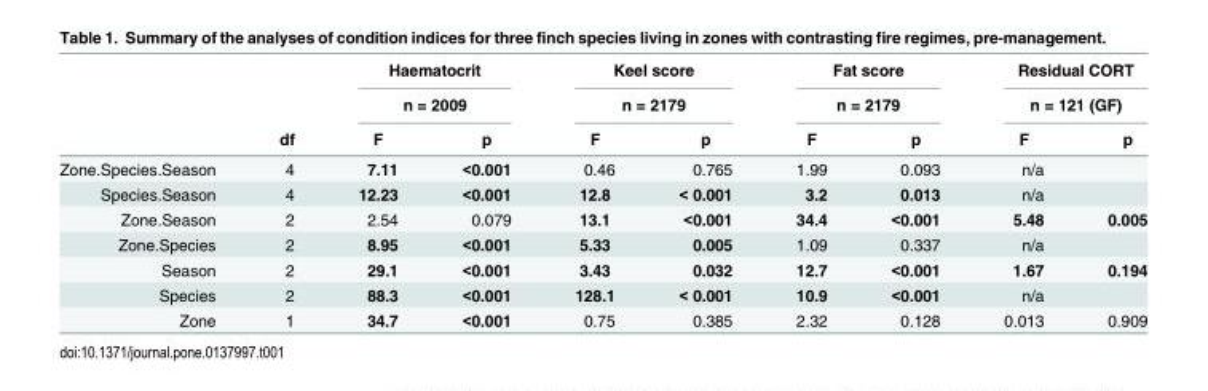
<table><thead><tr><td rowspan="3"></td><td rowspan="3">df</td><td rowspan="2" colspan="2">Haematocrit n = 2009</td><td rowspan="2" colspan="2">Keel score n = 2179</td><td rowspan="2" colspan="2">Fat score n = 2179</td><td rowspan="2" colspan="2">Residual CORT n = 121 (GF)</td></tr><tr></tr><tr><td>F</td><td>p</td><td>F</td><td>p</td><td>F</td><td>p</td><td>F</td><td>p</td></tr></thead><tbody><tr><td>Zone.Species.Season</td><td>4</td><td>7.11</td><td>&lt;0.001</td><td>0.46</td><td>0.765</td><td>1.99</td><td>0.093</td><td>n/a</td><td></td></tr><tr><td>Species.Season</td><td>4</td><td>12.23</td><td>&lt;0.001</td><td>12.8</td><td>&lt; 0.001</td><td>3.2</td><td>0.013</td><td>n/a</td><td></td></tr><tr><td>Zone.Season</td><td>2</td><td>2.54</td><td>0.079</td><td>13.1</td><td>&lt;0.001</td><td>34.4</td><td>&lt;0.001</td><td>5.48</td><td>0.005</td></tr><tr><td>Zone.Species</td><td>2</td><td>8.95</td><td>&lt;0.001</td><td>5.33</td><td>0.005</td><td>1.09</td><td>0.337</td><td>n/a</td><td></td></tr><tr><td>Season</td><td>2</td><td>29.1</td><td>&lt;0.001</td><td>3.43</td><td>0.032</td><td>12.7</td><td>&lt;0.001</td><td>1.67</td><td>0.194</td></tr><tr><td>Species</td><td>2</td><td>88.3</td><td>&lt;0.001</td><td>128.1</td><td>&lt; 0.001</td><td>10.9</td><td>&lt;0.001</td><td>n/a</td><td></td></tr><tr><td>Zone</td><td>1</td><td>34.7</td><td>&lt;0.001</td><td>0.75</td><td>0.385</td><td>2.32</td><td>0.128</td><td>0.013</td><td>0.909</td></tr></tbody></table>